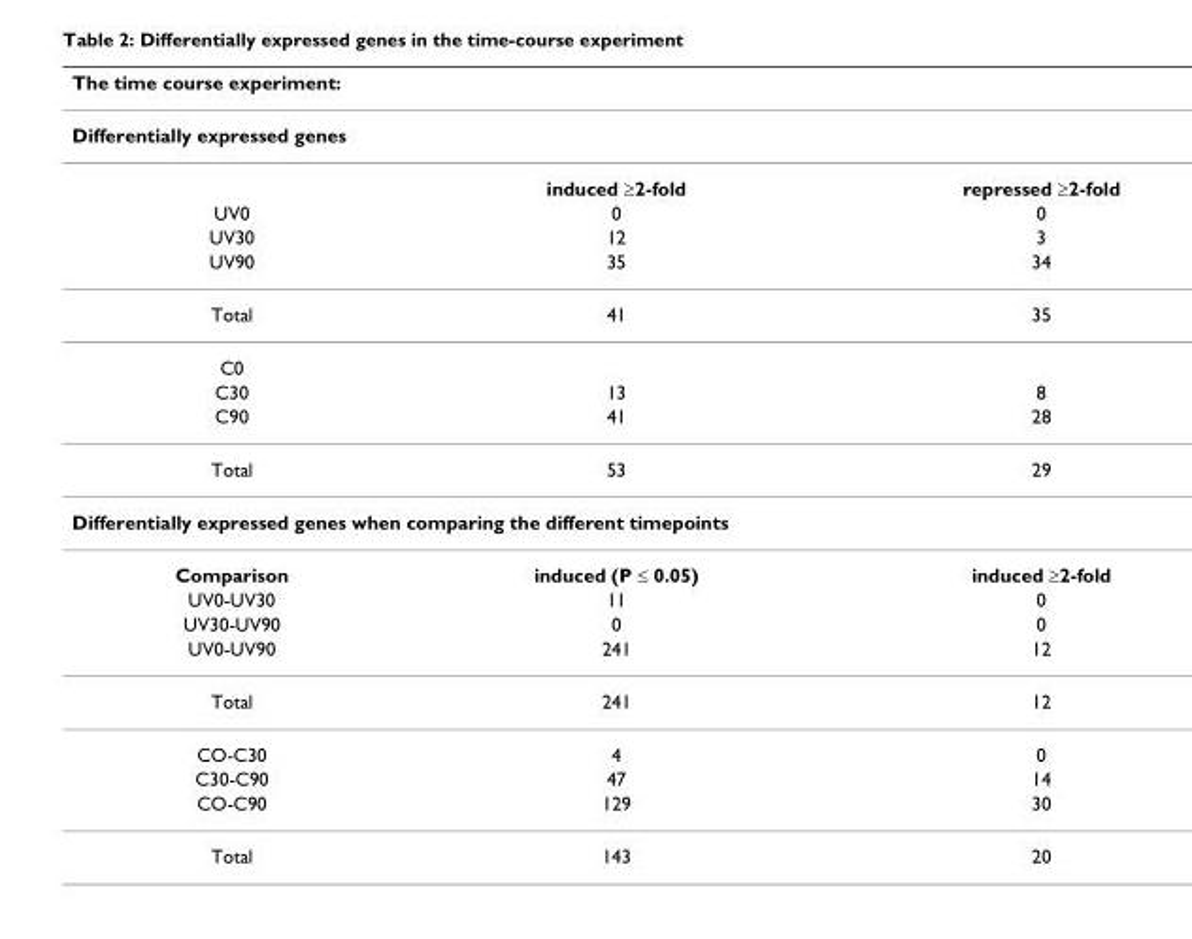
<table><thead><tr><td rowspan="2" colspan="3">The time course experiment: Differentially expressed genes</td></tr><tr></tr><tr><td></td><td>induced ≥2-fold</td><td>repressed ≥2-fold</td></tr></thead><tbody><tr><td>UV0</td><td>0</td><td>0</td></tr><tr><td>UV30</td><td>12</td><td>3</td></tr><tr><td>UV90</td><td>35</td><td>34</td></tr><tr><td>Total</td><td>41</td><td>35</td></tr><tr><td colspan="3">C0</td></tr><tr><td>C30</td><td>13</td><td>8</td></tr><tr><td>C90</td><td>41</td><td>28</td></tr><tr><td>Total</td><td>53</td><td>29</td></tr><tr><td colspan="3">Differentially expressed genes when comparing the different timepoints</td></tr><tr><td>Comparison</td><td>induced (P ≤ 0.05)</td><td>induced ≥2-fold</td></tr><tr><td>UV0-UV30</td><td>11</td><td>0</td></tr><tr><td>UV30-UV90</td><td>0</td><td>0</td></tr><tr><td>UV0-UV90</td><td>241</td><td>12</td></tr><tr><td>Total</td><td>241</td><td>12</td></tr><tr><td>CO-C30</td><td>4</td><td>0</td></tr><tr><td>C30-C90</td><td>47</td><td>14</td></tr><tr><td>CO-C90</td><td>129</td><td>30</td></tr><tr><td>Total</td><td>143</td><td>20</td></tr></tbody></table>